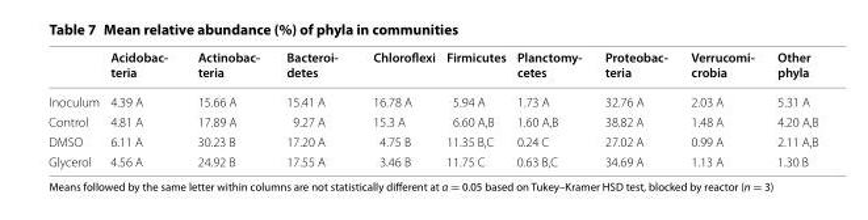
<table><thead><tr><td></td><td>Acidobac‑ teria</td><td>Actinobac‑ teria</td><td>Bacteroi‑ detes</td><td>Chloroflexi</td><td>Firmicutes</td><td>Planctomy‑ cetes</td><td>Proteobac‑ teria</td><td>Verrucomi‑ crobia</td><td>Other phyla</td></tr></thead><tbody><tr><td>Inoculum</td><td>4.39 A</td><td>15.66 A</td><td>15.41 A</td><td>16.78 A</td><td>5.94 A</td><td>1.73 A</td><td>32.76 A</td><td>2.03 A</td><td>5.31 A</td></tr><tr><td>Control</td><td>4.81 A</td><td>17.89 A</td><td>9.27 A</td><td>15.3 A</td><td>6.60 A,B</td><td>1.60 A,B</td><td>38.82 A</td><td>1.48 A</td><td>4.20 A,B</td></tr><tr><td>DMSO</td><td>6.11 A</td><td>30.23 B</td><td>17.20 A</td><td>4.75 B</td><td>11.35 B,C</td><td>0.24 C</td><td>27.02 A</td><td>0.99 A</td><td>2.11 A,B</td></tr><tr><td>Glycerol</td><td>4.56 A</td><td>24.92 B</td><td>17.55 A</td><td>3.46 B</td><td>11.75 C</td><td>0.63 B,C</td><td>34.69 A</td><td>1.13 A</td><td>1.30 B</td></tr></tbody></table>